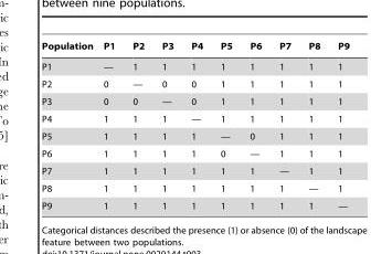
<table><thead><tr><td>Population</td><td>P1</td><td>P2</td><td>P3</td><td>P4</td><td>P5</td><td>P6</td><td>P7</td><td>P8</td><td>P9</td></tr></thead><tbody><tr><td>P1</td><td>—</td><td>1</td><td>1</td><td>1</td><td>1</td><td>1</td><td>1</td><td>1</td><td>1</td></tr><tr><td>P2</td><td>0</td><td>—</td><td>0</td><td>0</td><td>1</td><td>1</td><td>1</td><td>1</td><td>1</td></tr><tr><td>P3</td><td>0</td><td>0</td><td>—</td><td>0</td><td>1</td><td>1</td><td>1</td><td>1</td><td>1</td></tr><tr><td>P4</td><td>1</td><td>1</td><td>1</td><td>—</td><td>1</td><td>1</td><td>1</td><td>1</td><td>1</td></tr><tr><td>P5</td><td>1</td><td>1</td><td>1</td><td>1</td><td>—</td><td>0</td><td>1</td><td>1</td><td>1</td></tr><tr><td>P6</td><td>1</td><td>1</td><td>1</td><td>1</td><td>0</td><td>—</td><td>1</td><td>1</td><td>1</td></tr><tr><td>P7</td><td>1</td><td>1</td><td>1</td><td>1</td><td>1</td><td>1</td><td>—</td><td>1</td><td>1</td></tr><tr><td>P8</td><td>1</td><td>1</td><td>1</td><td>1</td><td>1</td><td>1</td><td>1</td><td>—</td><td>1</td></tr><tr><td>P9</td><td>1</td><td>1</td><td>1</td><td>1</td><td>1</td><td>1</td><td>1</td><td>1</td><td>—</td></tr></tbody></table>